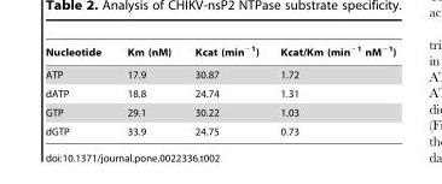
<table><thead><tr><td>Nucleotide</td><td>Km (nM)</td><td>Kcat (min<sup>−1</sup>)</td><td>Kcat/Km (min<sup>−1</sup> nM<sup>−1</sup>)</td></tr></thead><tbody><tr><td>ATP</td><td>17.9</td><td>30.87</td><td>1.72</td></tr><tr><td>dATP</td><td>18.8</td><td>24.74</td><td>1.31</td></tr><tr><td>GTP</td><td>29.1</td><td>30.22</td><td>1.03</td></tr><tr><td>dGTP</td><td>33.9</td><td>24.75</td><td>0.73</td></tr></tbody></table>